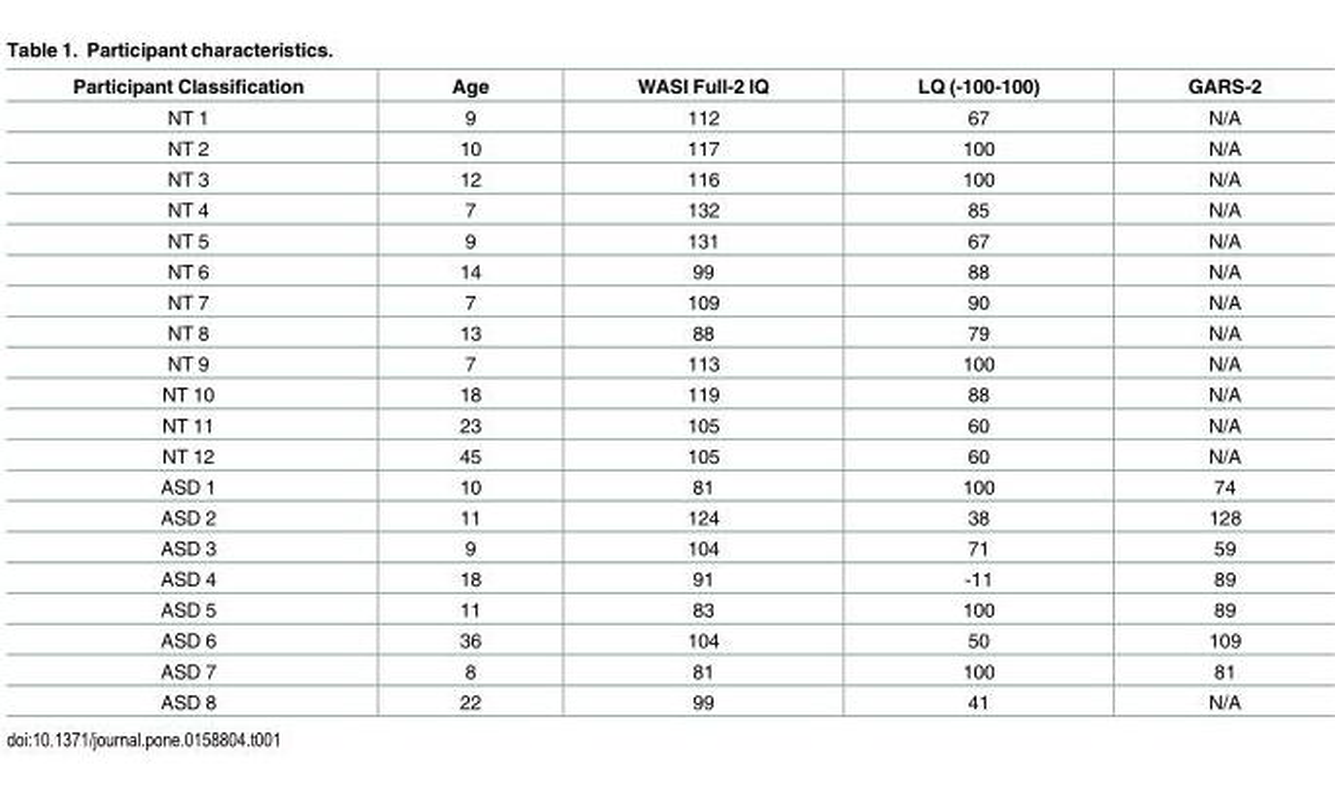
<table><thead><tr><td>Participant Classification</td><td>Age</td><td>WASI Full-2 IQ</td><td>LQ (-100-100)</td><td>GARS-2</td></tr></thead><tbody><tr><td>NT 1</td><td>9</td><td>112</td><td>67</td><td>N/A</td></tr><tr><td>NT 2</td><td>10</td><td>117</td><td>100</td><td>N/A</td></tr><tr><td>NT 3</td><td>12</td><td>116</td><td>100</td><td>N/A</td></tr><tr><td>NT 4</td><td>7</td><td>132</td><td>85</td><td>N/A</td></tr><tr><td>NT 5</td><td>9</td><td>131</td><td>67</td><td>N/A</td></tr><tr><td>NT 6</td><td>14</td><td>99</td><td>88</td><td>N/A</td></tr><tr><td>NT 7</td><td>7</td><td>109</td><td>90</td><td>N/A</td></tr><tr><td>NT 8</td><td>13</td><td>88</td><td>79</td><td>N/A</td></tr><tr><td>NT 9</td><td>7</td><td>113</td><td>100</td><td>N/A</td></tr><tr><td>NT 10</td><td>18</td><td>119</td><td>88</td><td>N/A</td></tr><tr><td>NT 11</td><td>23</td><td>105</td><td>60</td><td>N/A</td></tr><tr><td>NT 12</td><td>45</td><td>105</td><td>60</td><td>N/A</td></tr><tr><td>ASD 1</td><td>10</td><td>81</td><td>100</td><td>74</td></tr><tr><td>ASD 2</td><td>11</td><td>124</td><td>38</td><td>128</td></tr><tr><td>ASD 3</td><td>9</td><td>104</td><td>71</td><td>59</td></tr><tr><td>ASD 4</td><td>18</td><td>91</td><td>-11</td><td>89</td></tr><tr><td>ASD 5</td><td>11</td><td>83</td><td>100</td><td>89</td></tr><tr><td>ASD 6</td><td>36</td><td>104</td><td>50</td><td>109</td></tr><tr><td>ASD 7</td><td>8</td><td>81</td><td>100</td><td>81</td></tr><tr><td>ASD 8</td><td>22</td><td>99</td><td>41</td><td>N/A</td></tr></tbody></table>